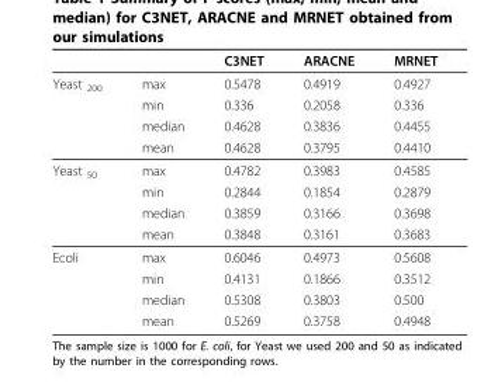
<table><thead><tr><td></td><td></td><td>C3NET</td><td>ARACNE</td><td>MRNET</td></tr></thead><tbody><tr><td rowspan="4">Yeast <sub>200</sub></td><td>max</td><td>0.5478</td><td>0.4919</td><td>0.4927</td></tr><tr><td>min</td><td>0.336</td><td>0.2058</td><td>0.336</td></tr><tr><td>median</td><td>0.4628</td><td>0.3836</td><td>0.4455</td></tr><tr><td>mean</td><td>0.4628</td><td>0.3795</td><td>0.4410</td></tr><tr><td rowspan="4">Yeast <sub>50</sub></td><td>max</td><td>0.4782</td><td>0.3983</td><td>0.4585</td></tr><tr><td>min</td><td>0.2844</td><td>0.1854</td><td>0.2879</td></tr><tr><td>median</td><td>0.3859</td><td>0.3166</td><td>0.3698</td></tr><tr><td>mean</td><td>0.3848</td><td>0.3161</td><td>0.3683</td></tr><tr><td rowspan="4">Ecoli</td><td>max</td><td>0.6046</td><td>0.4973</td><td>0.5608</td></tr><tr><td>min</td><td>0.4131</td><td>0.1866</td><td>0.3512</td></tr><tr><td>median</td><td>0.5308</td><td>0.3803</td><td>0.500</td></tr><tr><td>mean</td><td>0.5269</td><td>0.3758</td><td>0.4948</td></tr></tbody></table>